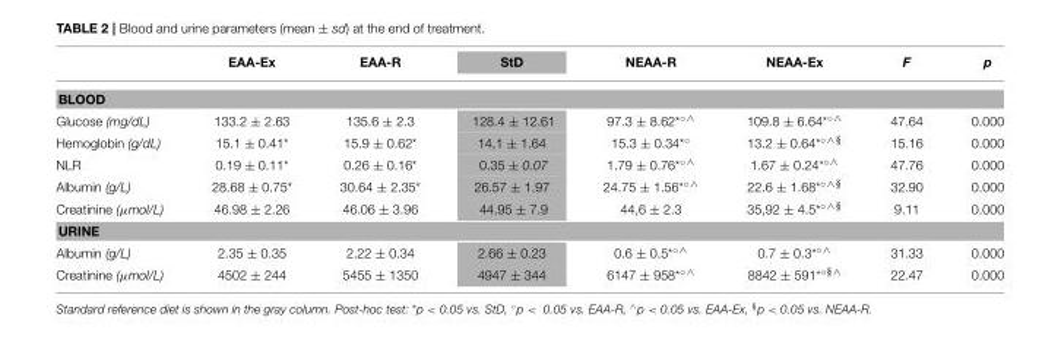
<table><thead><tr><td></td><td>EAA-Ex</td><td>EAA-R</td><td>StD</td><td>NEAA-R</td><td>NEAA-Ex</td><td>F</td><td>p</td></tr></thead><tbody><tr><td colspan="8">BLOOD</td></tr><tr><td>Glucose (mg/dL)</td><td>133.2 ± 2.63</td><td>135.6 ± 2.3</td><td>128.4 ± 12.61</td><td>97.3 ± 8.62*◦∧</td><td>109.8 ± 6.64*◦∧</td><td>47.64</td><td>0.000</td></tr><tr><td>Hemoglobin (g/dL)</td><td>15.1 ± 0.41*</td><td>15.9 ± 0.62*</td><td>14,1 ± 1.64</td><td>15.3 ± 0.34*◦</td><td>13.2 ± 0.64*◦∧§</td><td>15.16</td><td>0.000</td></tr><tr><td>NLR</td><td>0.19 ± 0.11*</td><td>0.26 ± 0.16*</td><td>0.35 ± 0.07</td><td>1.79 ± 0.76*◦∧</td><td>1.67 ± 0.24*◦∧</td><td>47.76</td><td>0.000</td></tr><tr><td>Albumin (g/L)</td><td>28.68 ± 0.75*</td><td>30.64 ± 2.35*</td><td>26.57 ± 1.97</td><td>24.75 ± 1.56*◦∧</td><td>22.6 ± 1.68*◦∧§</td><td>32.90</td><td>0.000</td></tr><tr><td>Creatinine (µmol/L)</td><td>46.98 ± 2.26</td><td>46.06 ± 3.96</td><td>44.95 ± 7.9</td><td>44,6 ± 2.3</td><td>35,92 ± 4.5*◦∧§</td><td>9.11</td><td>0.000</td></tr><tr><td colspan="8">URINE</td></tr><tr><td>Albumin (g/L)</td><td>2.35 ± 0.35</td><td>2.22 ± 0.34</td><td>2.66 ± 0.23</td><td>0.6 ± 0.5*◦∧</td><td>0.7 ± 0.3*◦∧</td><td>31.33</td><td>0.000</td></tr><tr><td>Creatinine (µmol/L)</td><td>4502 ± 244</td><td>5455 ± 1350</td><td>4947 ± 344</td><td>6147 ± 958*◦∧</td><td>8842 ± 591*◦§∧</td><td>22.47</td><td>0.000</td></tr></tbody></table>